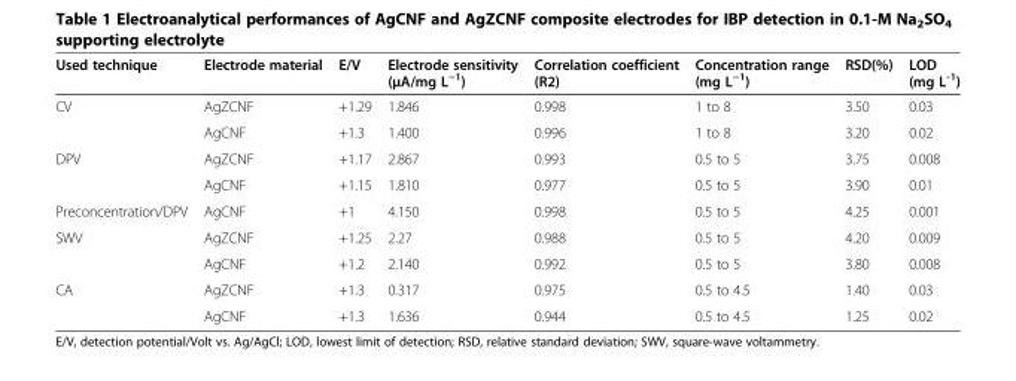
<table><thead><tr><td>Used technique</td><td>Electrode material</td><td>E/V</td><td>Electrode sensitivity (μA/mg L−1)</td><td>Correlation coefficient (R2)</td><td>Concentration range (mg L−1)</td><td>RSD(%)</td><td>LOD (mg L-1)</td></tr></thead><tbody><tr><td rowspan="2">CV</td><td>AgZCNF</td><td>+1.29</td><td>1.846</td><td>0.998</td><td>1 to 8</td><td>3.50</td><td>0.03</td></tr><tr><td>AgCNF</td><td>+1.3</td><td>1.400</td><td>0.996</td><td>1 to 8</td><td>3.20</td><td>0.02</td></tr><tr><td rowspan="2">DPV</td><td>AgZCNF</td><td>+1.17</td><td>2.867</td><td>0.993</td><td>0.5 to 5</td><td>3.75</td><td>0.008</td></tr><tr><td>AgCNF</td><td>+1.15</td><td>1.810</td><td>0.977</td><td>0.5 to 5</td><td>3.90</td><td>0.01</td></tr><tr><td>Preconcentration/DPV</td><td>AgCNF</td><td>+1</td><td>4.150</td><td>0.998</td><td>0.5 to 5</td><td>4.25</td><td>0.001</td></tr><tr><td rowspan="2">SWV</td><td>AgZCNF</td><td>+1.25</td><td>2.27</td><td>0.988</td><td>0.5 to 5</td><td>4.20</td><td>0.009</td></tr><tr><td>AgCNF</td><td>+1.2</td><td>2.140</td><td>0.992</td><td>0.5 to 5</td><td>3.80</td><td>0.008</td></tr><tr><td rowspan="2">CA</td><td>AgZCNF</td><td>+1.3</td><td>0.317</td><td>0.975</td><td>0.5 to 4.5</td><td>1.40</td><td>0.03</td></tr><tr><td>AgCNF</td><td>+1.3</td><td>1.636</td><td>0.944</td><td>0.5 to 4.5</td><td>1.25</td><td>0.02</td></tr></tbody></table>